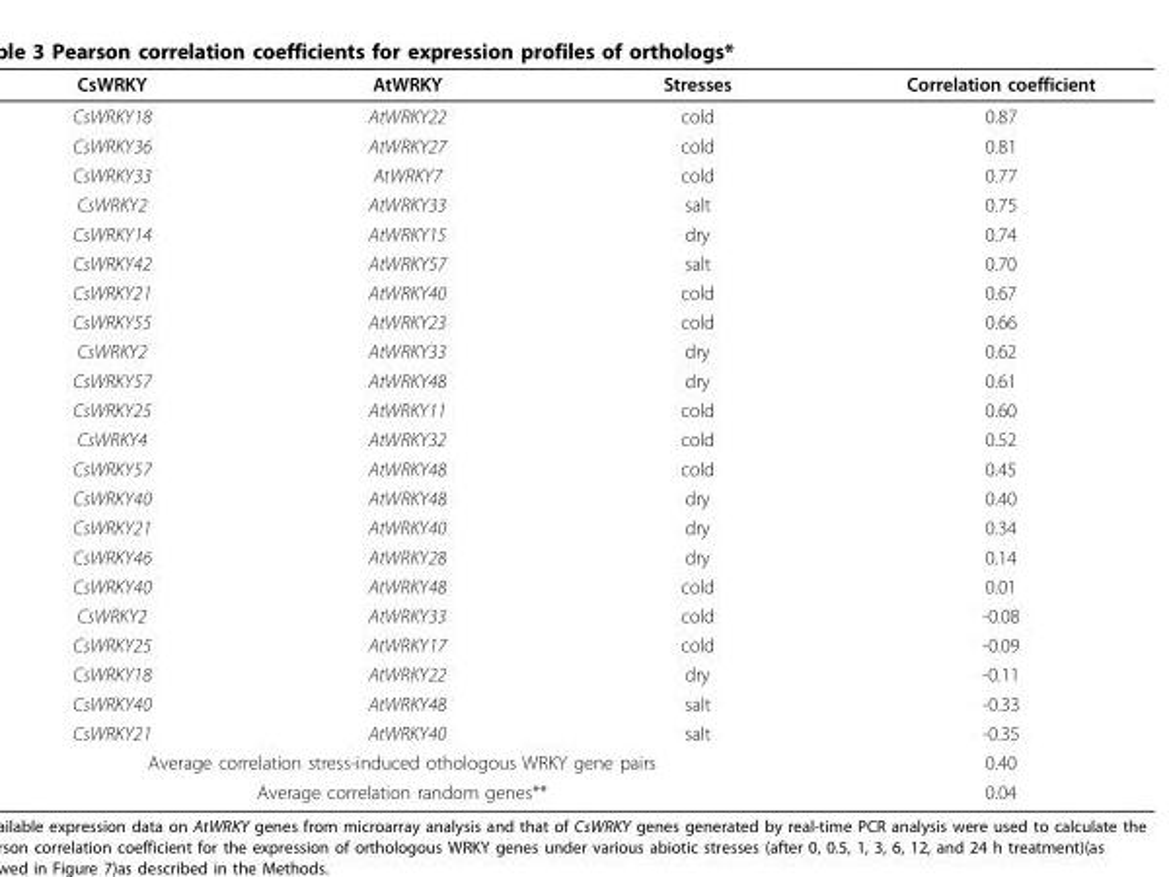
<table><thead><tr><td>CsWRKY</td><td>AtWRKY</td><td>Stresses</td><td>Correlation coefficient</td></tr></thead><tbody><tr><td>CsWRKY18</td><td>AtWRKY22</td><td>cold</td><td>0.87</td></tr><tr><td>CsWRKY36</td><td>AtWRKY27</td><td>cold</td><td>0.81</td></tr><tr><td>CsWRKY33</td><td>AtWRKY7</td><td>cold</td><td>0.77</td></tr><tr><td>CsWRKY2</td><td>AtWRKY33</td><td>salt</td><td>0.75</td></tr><tr><td>CsWRKY14</td><td>AtWRKY15</td><td>dry</td><td>0.74</td></tr><tr><td>CsWRKY42</td><td>AtWRKY57</td><td>salt</td><td>0.70</td></tr><tr><td>CsWRKY21</td><td>AtWRKY40</td><td>cold</td><td>0.67</td></tr><tr><td>CsWRKY55</td><td>AtWRKY23</td><td>cold</td><td>0.66</td></tr><tr><td>CsWRKY2</td><td>AtWRKY33</td><td>dry</td><td>0.62</td></tr><tr><td>CsWRKY57</td><td>AtWRKY48</td><td>dry</td><td>0.61</td></tr><tr><td>CsWRKY25</td><td>AtWRKY11</td><td>cold</td><td>0.60</td></tr><tr><td>CsWRKY4</td><td>AtWRKY32</td><td>cold</td><td>0.52</td></tr><tr><td>CsWRKY57</td><td>AtWRKY48</td><td>cold</td><td>0.45</td></tr><tr><td>CsWRKY40</td><td>AtWRKY48</td><td>dry</td><td>0.40</td></tr><tr><td>CsWRKY21</td><td>AtWRKY40</td><td>dry</td><td>0.34</td></tr><tr><td>CsWRKY46</td><td>AtWRKY28</td><td>dry</td><td>0.14</td></tr><tr><td>CsWRKY40</td><td>AtWRKY48</td><td>cold</td><td>0.01</td></tr><tr><td>CsWRKY2</td><td>AtWRKY33</td><td>cold</td><td>-0.08</td></tr><tr><td>CsWRKY25</td><td>AtWRKY17</td><td>cold</td><td>-0.09</td></tr><tr><td>CsWRKY18</td><td>AtWRKY22</td><td>dry</td><td>-0.11</td></tr><tr><td>CsWRKY40</td><td>AtWRKY48</td><td>salt</td><td>-0.33</td></tr><tr><td>CsWRKY21</td><td>AtWRKY40</td><td>salt</td><td>-0.35</td></tr><tr><td colspan="3">Average correlation stress-induced othologous WRKY gene pairs</td><td>0.40</td></tr><tr><td colspan="3">Average correlation random genes**</td><td>0.04</td></tr></tbody></table>